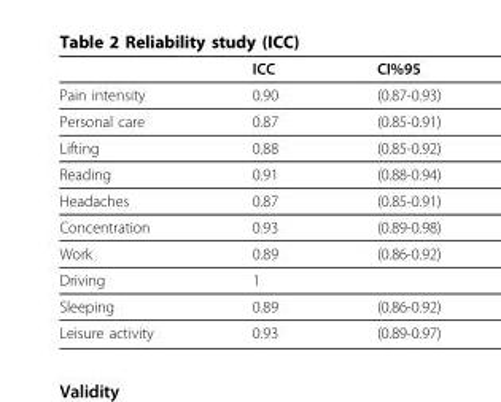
<table><thead><tr><td></td><td>ICC</td><td>CI%95</td></tr></thead><tbody><tr><td>Pain intensity</td><td>0.90</td><td>(0.87-0.93)</td></tr><tr><td>Personal care</td><td>0.87</td><td>(0.85-0.91)</td></tr><tr><td>Lifting</td><td>0.88</td><td>(0.85-0.92)</td></tr><tr><td>Reading</td><td>0.91</td><td>(0.88-0.94)</td></tr><tr><td>Headaches</td><td>0.87</td><td>(0.85-0.91)</td></tr><tr><td>Concentration</td><td>0.93</td><td>(0.89-0.98)</td></tr><tr><td>Work</td><td>0.89</td><td>(0.86-0.92)</td></tr><tr><td>Driving</td><td>1</td><td></td></tr><tr><td>Sleeping</td><td>0.89</td><td>(0.86-0.92)</td></tr><tr><td>Leisure activity</td><td>0.93</td><td>(0.89-0.97)</td></tr></tbody></table>